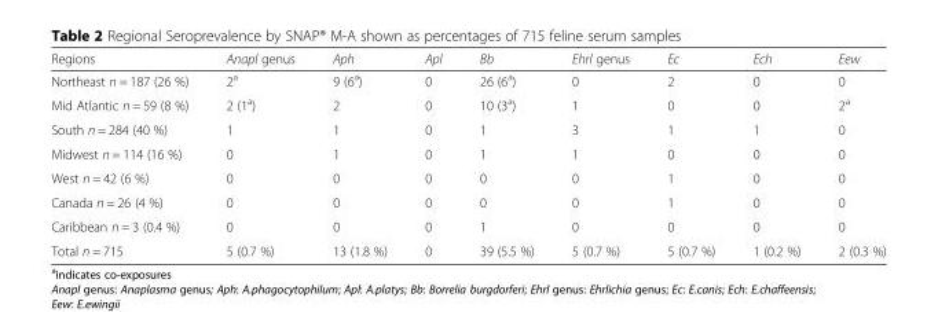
<table><thead><tr><td>Regions</td><td>Anapl genus</td><td>Aph</td><td>Apl</td><td>Bb</td><td>Ehrl genus</td><td>Ec</td><td>Ech</td><td>Eew</td></tr></thead><tbody><tr><td>Northeast n = 187 (26 %)</td><td>2<sup>a</sup></td><td>9 (6<sup>a</sup>)</td><td>0</td><td>26 (6<sup>a</sup>)</td><td>0</td><td>2</td><td>0</td><td>0</td></tr><tr><td>Mid Atlantic n = 59 (8 %)</td><td>2 (1<sup>a</sup>)</td><td>2</td><td>0</td><td>10 (3<sup>a</sup>)</td><td>1</td><td>0</td><td>0</td><td>2<sup>a</sup></td></tr><tr><td>South n = 284 (40 %)</td><td>1</td><td>1</td><td>0</td><td>1</td><td>3</td><td>1</td><td>1</td><td>0</td></tr><tr><td>Midwest n = 114 (16 %)</td><td>0</td><td>1</td><td>0</td><td>1</td><td>1</td><td>0</td><td>0</td><td>0</td></tr><tr><td>West n = 42 (6 %)</td><td>0</td><td>0</td><td>0</td><td>0</td><td>0</td><td>1</td><td>0</td><td>0</td></tr><tr><td>Canada n = 26 (4 %)</td><td>0</td><td>0</td><td>0</td><td>0</td><td>0</td><td>1</td><td>0</td><td>0</td></tr><tr><td>Caribbean n = 3 (0.4 %)</td><td>0</td><td>0</td><td>0</td><td>1</td><td>0</td><td>0</td><td>0</td><td>0</td></tr><tr><td>Total n = 715</td><td>5 (0.7 %)</td><td>13 (1.8 %)</td><td>0</td><td>39 (5.5 %)</td><td>5 (0.7 %)</td><td>5 (0.7 %)</td><td>1 (0.2 %)</td><td>2 (0.3 %)</td></tr></tbody></table>